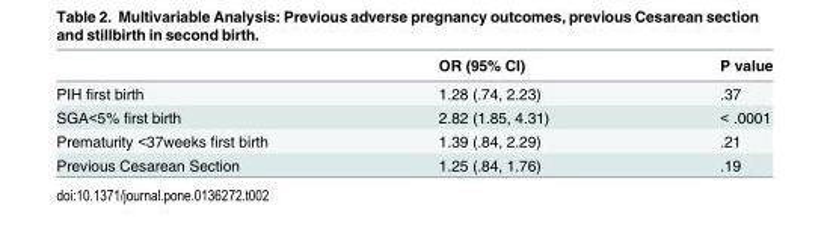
<table><thead><tr><td></td><td>OR (95% CI)</td><td>P value</td></tr></thead><tbody><tr><td>PIH first birth</td><td>1.28 (.74, 2.23)</td><td>.37</td></tr><tr><td>SGA&lt;5% first birth</td><td>2.82 (1.85, 4.31)</td><td>&lt; .0001</td></tr><tr><td>Prematurity &lt;37weeks first birth</td><td>1.39 (.84, 2.29)</td><td>.21</td></tr><tr><td>Previous Cesarean Section</td><td>1.25 (.84, 1.76)</td><td>.19</td></tr></tbody></table>